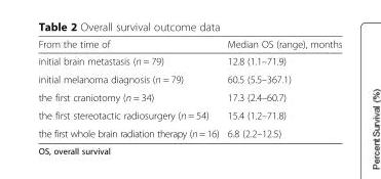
<table><thead><tr><td>From the time of</td><td>Median OS (range), months</td></tr></thead><tbody><tr><td>initial brain metastasis (n = 79)</td><td>12.8 (1.1–71.9)</td></tr><tr><td>initial melanoma diagnosis (n = 79)</td><td>60.5 (5.5–367.1)</td></tr><tr><td>the first craniotomy (n = 34)</td><td>17.3 (2.4–60.7)</td></tr><tr><td>the first stereotactic radiosurgery (n = 54)</td><td>15.4 (1.2–71.8)</td></tr><tr><td>the first whole brain radiation therapy (n = 16)</td><td>6.8 (2.2–12.5)</td></tr></tbody></table>